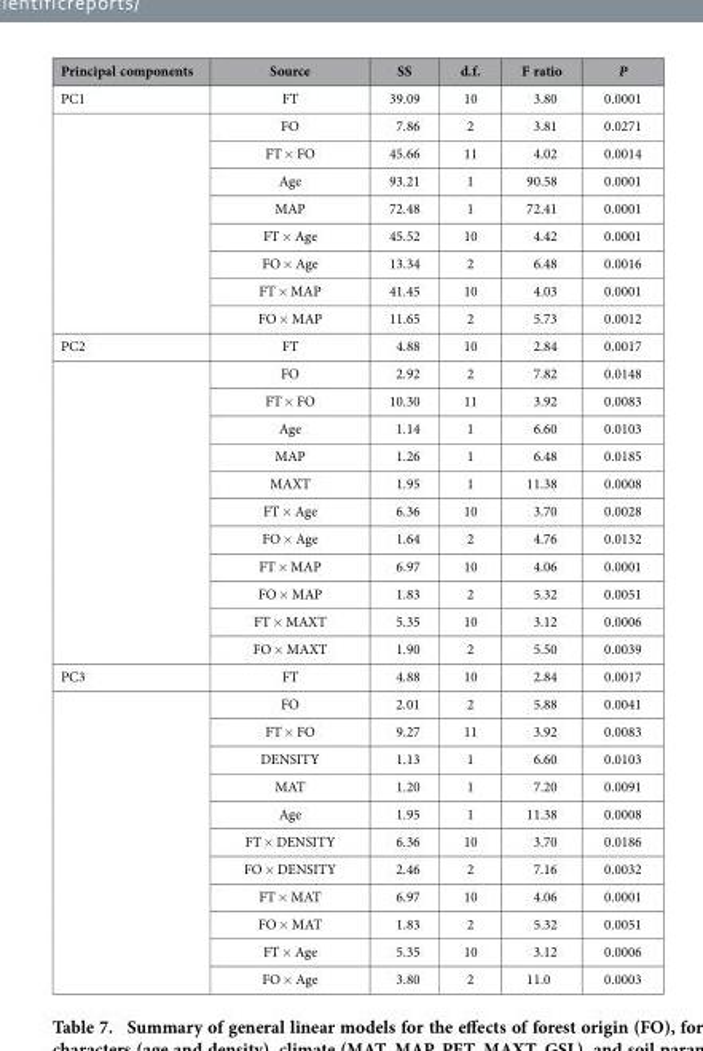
<table><thead><tr><td>Principal components</td><td>Source</td><td>SS</td><td>d.f.</td><td>F ratio</td><td>P</td></tr></thead><tbody><tr><td rowspan="9">PC1</td><td>FT</td><td>39.09</td><td>10</td><td>3.80</td><td>0.0001</td></tr><tr><td>FO</td><td>7.86</td><td>2</td><td>3.81</td><td>0.0271</td></tr><tr><td>FT × FO</td><td>45.66</td><td>11</td><td>4.02</td><td>0.0014</td></tr><tr><td>Age</td><td>93.21</td><td>1</td><td>90.58</td><td>0.0001</td></tr><tr><td>MAP</td><td>72.48</td><td>1</td><td>72.41</td><td>0.0001</td></tr><tr><td>FT × Age</td><td>45.52</td><td>10</td><td>4.42</td><td>0.0001</td></tr><tr><td>FO × Age</td><td>13.34</td><td>2</td><td>6.48</td><td>0.0016</td></tr><tr><td>FT × MAP</td><td>41.45</td><td>10</td><td>4.03</td><td>0.0001</td></tr><tr><td>FO × MAP</td><td>11.65</td><td>2</td><td>5.73</td><td>0.0012</td></tr><tr><td rowspan="12">PC2</td><td>FT</td><td>4.88</td><td>10</td><td>2.84</td><td>0.0017</td></tr><tr><td>FO</td><td>2.92</td><td>2</td><td>7.82</td><td>0.0148</td></tr><tr><td>FT × FO</td><td>10.30</td><td>11</td><td>3.92</td><td>0.0083</td></tr><tr><td>Age</td><td>1.14</td><td>1</td><td>6.60</td><td>0.0103</td></tr><tr><td>MAP</td><td>1.26</td><td>1</td><td>6.48</td><td>0.0185</td></tr><tr><td>MAXT</td><td>1.95</td><td>1</td><td>11.38</td><td>0.0008</td></tr><tr><td>FT × Age</td><td>6.36</td><td>10</td><td>3.70</td><td>0.0028</td></tr><tr><td>FO × Age</td><td>1.64</td><td>2</td><td>4.76</td><td>0.0132</td></tr><tr><td>FT × MAP</td><td>6.97</td><td>10</td><td>4.06</td><td>0.0001</td></tr><tr><td>FO × MAP</td><td>1.83</td><td>2</td><td>5.32</td><td>0.0051</td></tr><tr><td>FT × MAXT</td><td>5.35</td><td>10</td><td>3.12</td><td>0.0006</td></tr><tr><td>FO × MAXT</td><td>1.90</td><td>2</td><td>5.50</td><td>0.0039</td></tr><tr><td rowspan="12">PC3</td><td>FT</td><td>4.88</td><td>10</td><td>2.84</td><td>0.0017</td></tr><tr><td>FO</td><td>2.01</td><td>2</td><td>5.88</td><td>0.0041</td></tr><tr><td>FT × FO</td><td>9.27</td><td>11</td><td>3.92</td><td>0.0083</td></tr><tr><td>DENSITY</td><td>1.13</td><td>1</td><td>6.60</td><td>0.0103</td></tr><tr><td>MAT</td><td>1.20</td><td>1</td><td>7.20</td><td>0.0091</td></tr><tr><td>Age</td><td>1.95</td><td>1</td><td>11.38</td><td>0.0008</td></tr><tr><td>FT × DENSITY</td><td>6.36</td><td>10</td><td>3.70</td><td>0.0186</td></tr><tr><td>FO × DENSITY</td><td>2.46</td><td>2</td><td>7.16</td><td>0.0032</td></tr><tr><td>FT × MAT</td><td>6.97</td><td>10</td><td>4.06</td><td>0.0001</td></tr><tr><td>FO × MAT</td><td>1.83</td><td>2</td><td>5.32</td><td>0.0051</td></tr><tr><td>FT × Age</td><td>5.35</td><td>10</td><td>3.12</td><td>0.0006</td></tr><tr><td>FO × Age</td><td>3.80</td><td>2</td><td>11.0</td><td>0.0003</td></tr></tbody></table>